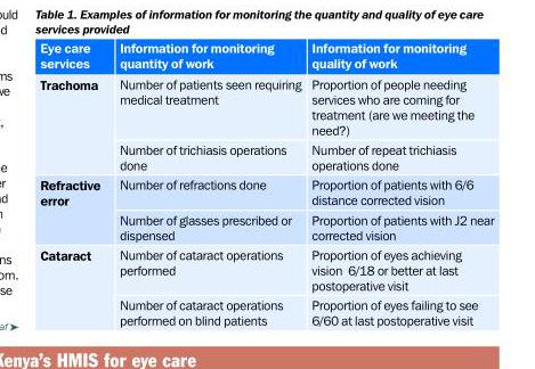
<table><thead><tr><td>Eye care services</td><td>information for monitoring quantity of work</td><td>information for monitoring quality of work</td></tr></thead><tbody><tr><td rowspan="2">trachoma</td><td>Number of patients seen requiring medical treatment</td><td>Proportion of people needing services who are coming for treatment (are we meeting the need?)</td></tr><tr><td>Number of trichiasis operations done</td><td>Number of repeat trichiasis operations done</td></tr><tr><td rowspan="2">refractive error</td><td>Number of refractions done</td><td>Proportion of patients with 6/6 distance corrected vision</td></tr><tr><td>Number of glasses prescribed or dispensed</td><td>Proportion of patients with J2 near corrected vision</td></tr><tr><td rowspan="2">Cataract</td><td>Number of cataract operations performed</td><td>Proportion of eyes achieving vision 6/18 or better at last postoperative visit</td></tr><tr><td>Number of cataract operations performed on blind patients</td><td>Proportion of eyes failing to see 6/60 at last postoperative visit</td></tr></tbody></table>